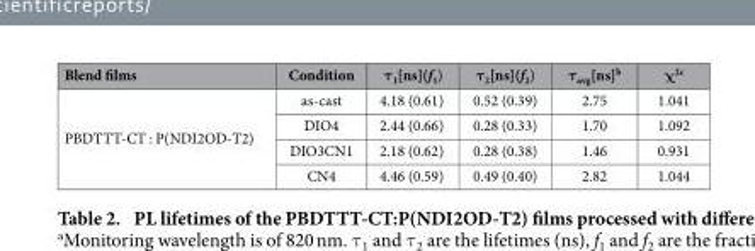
<table><thead><tr><td>Blend films</td><td>Condition</td><td>τ<sub>1</sub>[ns](f<sub>1</sub>)</td><td>τ<sub>2</sub>[ns](f<sub>2</sub>)</td><td>τ<sub>avg</sub>[ns]<sup>b</sup></td><td>χ<sup>2c</sup></td></tr></thead><tbody><tr><td rowspan="4">PBDTTT-CT : P(NDI2OD-T2)</td><td>as-cast</td><td>4.18 (0.61)</td><td>0.52 (0.39)</td><td>2.75</td><td>1.041</td></tr><tr><td>DIO4</td><td>2.44 (0.66)</td><td>0.28 (0.33)</td><td>1.70</td><td>1.092</td></tr><tr><td>DIO3CN1</td><td>2.18 (0.62)</td><td>0.28 (0.38)</td><td>1.46</td><td>0.931</td></tr><tr><td>CN4</td><td>4.46 (0.59)</td><td>0.49 (0.40)</td><td>2.82</td><td>1.044</td></tr></tbody></table>